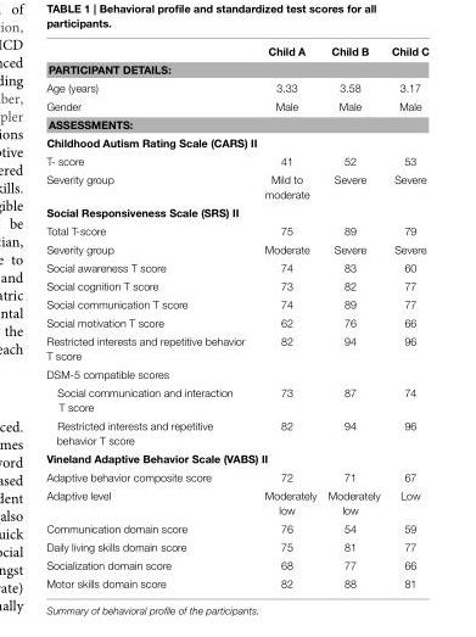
<table><thead><tr><td></td><td>Child A</td><td>Child B</td><td>Child C</td></tr></thead><tbody><tr><td colspan="4">PARTICIPANT DETAILS:</td></tr><tr><td>Age (years)</td><td>3.33</td><td>3.58</td><td>3.17</td></tr><tr><td>Gender</td><td>Male</td><td>Male</td><td>Male</td></tr><tr><td colspan="4">ASSESSMENTS:</td></tr><tr><td colspan="4">Childhood Autism Rating Scale (CARS) II</td></tr><tr><td>T- score</td><td>41</td><td>52</td><td>53</td></tr><tr><td>Severity group</td><td>Mild to moderate</td><td>Severe</td><td>Severe</td></tr><tr><td colspan="4">Social Responsiveness Scale (SRS) II</td></tr><tr><td>Total T-score</td><td>75</td><td>89</td><td>79</td></tr><tr><td>Severity group</td><td>Moderate</td><td>Severe</td><td>Severe</td></tr><tr><td>Social awareness T score</td><td>74</td><td>83</td><td>60</td></tr><tr><td>Social cognition T score</td><td>73</td><td>82</td><td>77</td></tr><tr><td>Social communication T score</td><td>74</td><td>89</td><td>77</td></tr><tr><td>Social motivation T score</td><td>62</td><td>76</td><td>66</td></tr><tr><td>Restricted interests and repetitive behavior T score</td><td>82</td><td>94</td><td>96</td></tr><tr><td colspan="4">DSM-5 compatible scores</td></tr><tr><td>Social communication and interaction T score</td><td>73</td><td>87</td><td>74</td></tr><tr><td>Restricted interests and repetitive behavior T score</td><td>82</td><td>94</td><td>96</td></tr><tr><td colspan="4">Vineland Adaptive Behavior Scale (VABS) II</td></tr><tr><td>Adaptive behavior composite score</td><td>72</td><td>71</td><td>67</td></tr><tr><td>Adaptive level</td><td>Moderately low</td><td>Moderately low</td><td>Low</td></tr><tr><td>Communication domain score</td><td>76</td><td>54</td><td>59</td></tr><tr><td>Daily living skills domain score</td><td>75</td><td>81</td><td>77</td></tr><tr><td>Socialization domain score</td><td>68</td><td>77</td><td>66</td></tr><tr><td>Motor skills domain score</td><td>82</td><td>88</td><td>81</td></tr></tbody></table>